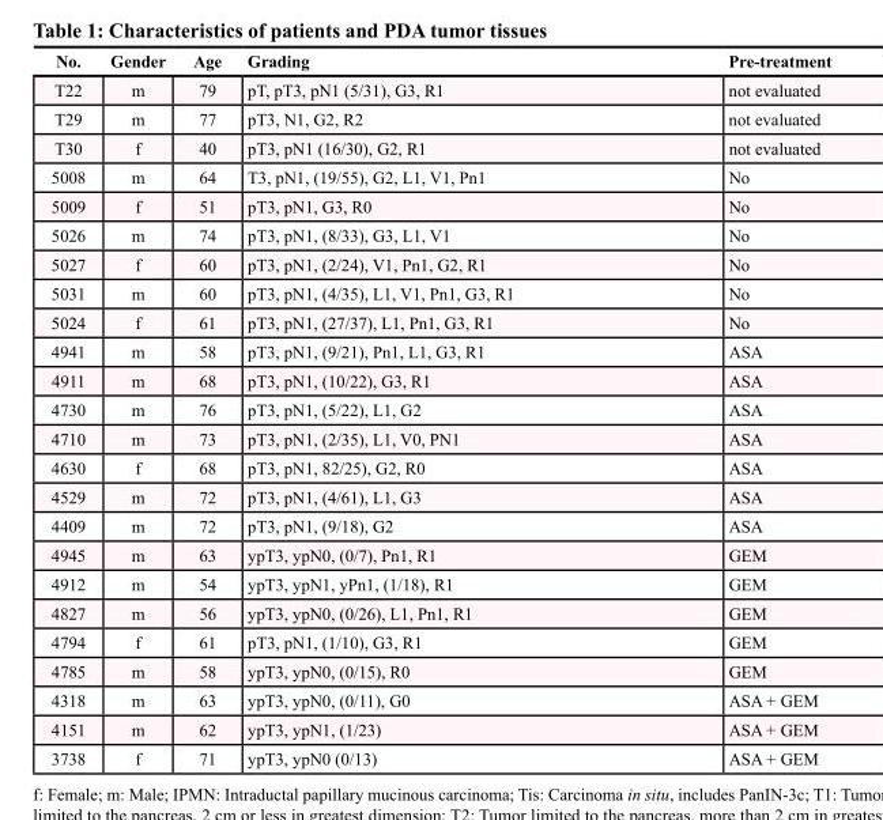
<table><thead><tr><td>No.</td><td>Gender</td><td>Age</td><td>Grading</td><td>Pre-treatment</td></tr></thead><tbody><tr><td>T22</td><td>m</td><td>79</td><td>pT, pT3, pN1 (5/31), G3, R1</td><td>not evaluated</td></tr><tr><td>T29</td><td>m</td><td>77</td><td>pT3, N1, G2, R2</td><td>not evaluated</td></tr><tr><td>T30</td><td>f</td><td>40</td><td>pT3, pN1 (16/30), G2, R1</td><td>not evaluated</td></tr><tr><td>5008</td><td>m</td><td>64</td><td>T3, pN1, (19/55), G2, L1, V1, Pn1</td><td>No</td></tr><tr><td>5009</td><td>f</td><td>51</td><td>pT3, pN1, G3, R0</td><td>No</td></tr><tr><td>5026</td><td>m</td><td>74</td><td>pT3, pN1, (8/33), G3, L1, V1</td><td>No</td></tr><tr><td>5027</td><td>f</td><td>60</td><td>pT3, pN1, (2/24), V1, Pn1, G2, R1</td><td>No</td></tr><tr><td>5031</td><td>m</td><td>60</td><td>pT3, pN1, (4/35), L1, V1, Pn1, G3, R1</td><td>No</td></tr><tr><td>5024</td><td>f</td><td>61</td><td>pT3, pN1, (27/37), L1, Pn1, G3, R1</td><td>No</td></tr><tr><td>4941</td><td>m</td><td>58</td><td>pT3, pN1, (9/21), Pn1, L1, G3, R1</td><td>ASA</td></tr><tr><td>4911</td><td>m</td><td>68</td><td>pT3, pN1, (10/22), G3, R1</td><td>ASA</td></tr><tr><td>4730</td><td>m</td><td>76</td><td>pT3, pN1, (5/22), L1, G2</td><td>ASA</td></tr><tr><td>4710</td><td>m</td><td>73</td><td>pT3, pN1, (2/35), L1, V0, PN1</td><td>ASA</td></tr><tr><td>4630</td><td>f</td><td>68</td><td>pT3, pN1, 82/25), G2, R0</td><td>ASA</td></tr><tr><td>4529</td><td>m</td><td>72</td><td>pT3, pN1, (4/61), L1, G3</td><td>ASA</td></tr><tr><td>4409</td><td>m</td><td>72</td><td>pT3, pN1, (9/18), G2</td><td>ASA</td></tr><tr><td>4945</td><td>m</td><td>63</td><td>ypT3, ypN0, (0/7), Pn1, R1</td><td>GEM</td></tr><tr><td>4912</td><td>m</td><td>54</td><td>ypT3, ypN1, yPn1, (1/18), R1</td><td>GEM</td></tr><tr><td>4827</td><td>m</td><td>56</td><td>ypT3, ypN0, (0/26), L1, Pn1, R1</td><td>GEM</td></tr><tr><td>4794</td><td>f</td><td>61</td><td>pT3, pN1, (1/10), G3, R1</td><td>GEM</td></tr><tr><td>4785</td><td>m</td><td>58</td><td>ypT3, ypN0, (0/15), R0</td><td>GEM</td></tr><tr><td>4318</td><td>m</td><td>63</td><td>ypT3, ypN0, (0/11), G0</td><td>ASA + GEM</td></tr><tr><td>4151</td><td>m</td><td>62</td><td>ypT3, ypN1, (1/23)</td><td>ASA + GEM</td></tr><tr><td>3738</td><td>f</td><td>71</td><td>ypT3, ypN0 (0/13)</td><td>ASA + GEM</td></tr></tbody></table>